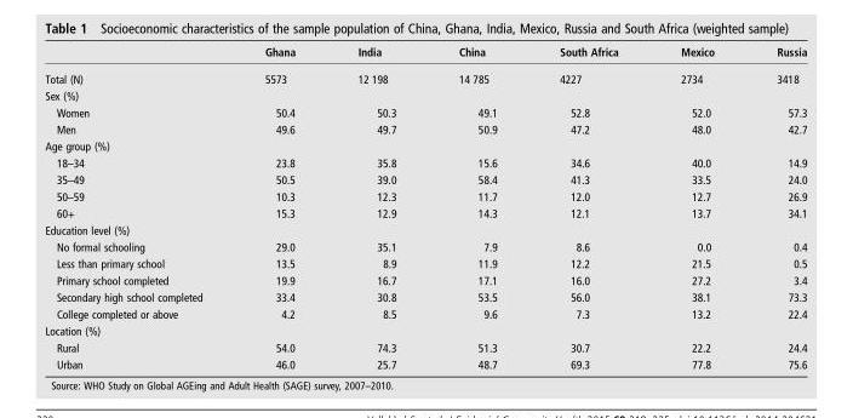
<table><thead><tr><td></td><td>Ghana</td><td>India</td><td>China</td><td>South Africa</td><td>Mexico</td><td>Russia</td></tr></thead><tbody><tr><td>Total (N)</td><td>5573</td><td>12 198</td><td>14 785</td><td>4227</td><td>2734</td><td>3418</td></tr><tr><td colspan="7">Sex (%)</td></tr><tr><td>Women</td><td>50.4</td><td>50.3</td><td>49.1</td><td>52.8</td><td>52.0</td><td>57.3</td></tr><tr><td>Men</td><td>49.6</td><td>49.7</td><td>50.9</td><td>47.2</td><td>48.0</td><td>42.7</td></tr><tr><td colspan="7">Age group (%)</td></tr><tr><td>18–34</td><td>23.8</td><td>35.8</td><td>15.6</td><td>34.6</td><td>40.0</td><td>14.9</td></tr><tr><td>35–49</td><td>50.5</td><td>39.0</td><td>58.4</td><td>41.3</td><td>33.5</td><td>24.0</td></tr><tr><td>50–59</td><td>10.3</td><td>12.3</td><td>11.7</td><td>12.0</td><td>12.7</td><td>26.9</td></tr><tr><td>60+</td><td>15.3</td><td>12.9</td><td>14.3</td><td>12.1</td><td>13.7</td><td>34.1</td></tr><tr><td colspan="7">Education level (%)</td></tr><tr><td>No formal schooling</td><td>29.0</td><td>35.1</td><td>7.9</td><td>8.6</td><td>0.0</td><td>0.4</td></tr><tr><td>Less than primary school</td><td>13.5</td><td>8.9</td><td>11.9</td><td>12.2</td><td>21.5</td><td>0.5</td></tr><tr><td>Primary school completed</td><td>19.9</td><td>16.7</td><td>17.1</td><td>16.0</td><td>27.2</td><td>3.4</td></tr><tr><td>Secondary high school completed</td><td>33.4</td><td>30.8</td><td>53.5</td><td>56.0</td><td>38.1</td><td>73.3</td></tr><tr><td>College completed or above</td><td>4.2</td><td>8.5</td><td>9.6</td><td>7.3</td><td>13.2</td><td>22.4</td></tr><tr><td colspan="7">Location (%)</td></tr><tr><td>Rural</td><td>54.0</td><td>74.3</td><td>51.3</td><td>30.7</td><td>22.2</td><td>24.4</td></tr><tr><td>Urban</td><td>46.0</td><td>25.7</td><td>48.7</td><td>69.3</td><td>77.8</td><td>75.6</td></tr></tbody></table>